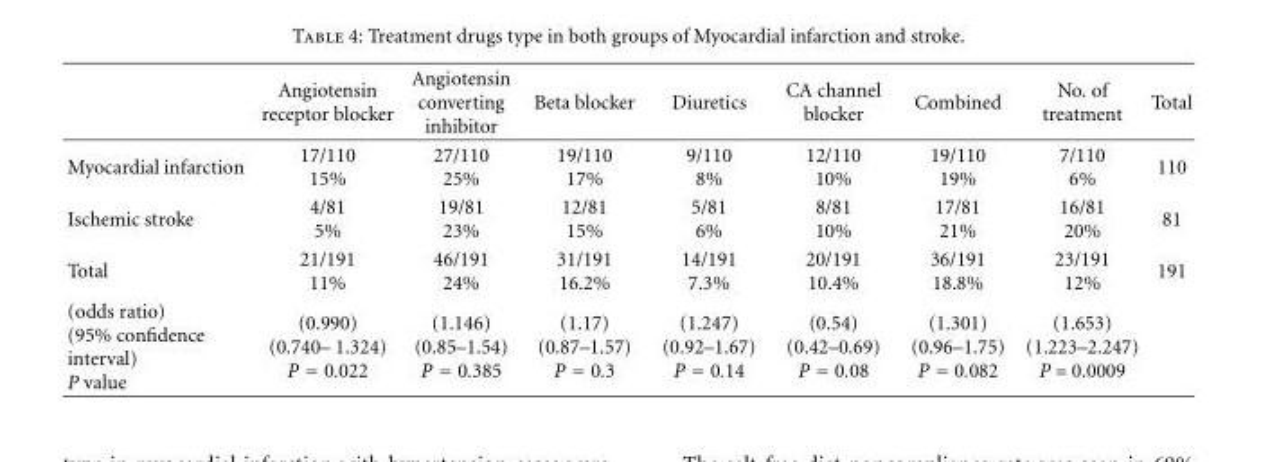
<table><thead><tr><td></td><td>Angiotensin receptor blocker</td><td>Angiotensin converting inhibitor</td><td>Beta blocker</td><td>Diuretics</td><td>CA channel blocker</td><td>Combined</td><td>No. of treatment</td><td>Total</td></tr></thead><tbody><tr><td>Myocardial infarction</td><td>17/110 15%</td><td>27/110 25%</td><td>19/110 17%</td><td>9/110 8%</td><td>12/110 10%</td><td>19/110 19%</td><td>7/110 6%</td><td>110</td></tr><tr><td>Ischemic stroke</td><td>4/81 5%</td><td>19/81 23%</td><td>12/81 15%</td><td>5/81 6%</td><td>8/81 10%</td><td>17/81 21%</td><td>16/81 20%</td><td>81</td></tr><tr><td>Total</td><td>21/191 11%</td><td>46/191 24%</td><td>31/191 16.2%</td><td>14/191 7.3%</td><td>20/191 10.4%</td><td>36/191 18.8%</td><td>23/191 12%</td><td>191</td></tr><tr><td>(odds ratio) (95% confidence interval) P value</td><td>(0.990) (0.740– 1.324) P = 0.022</td><td>(1.146) (0.85–1.54) P = 0.385</td><td>(1.17) (0.87–1.57) P = 0.3</td><td>(1.247) (0.92–1.67) P = 0.14</td><td>(0.54) (0.42–0.69) P = 0.08</td><td>(1.301) (0.96–1.75) P = 0.082</td><td>(1.653) (1.223–2.247) P = 0.0009</td><td></td></tr></tbody></table>